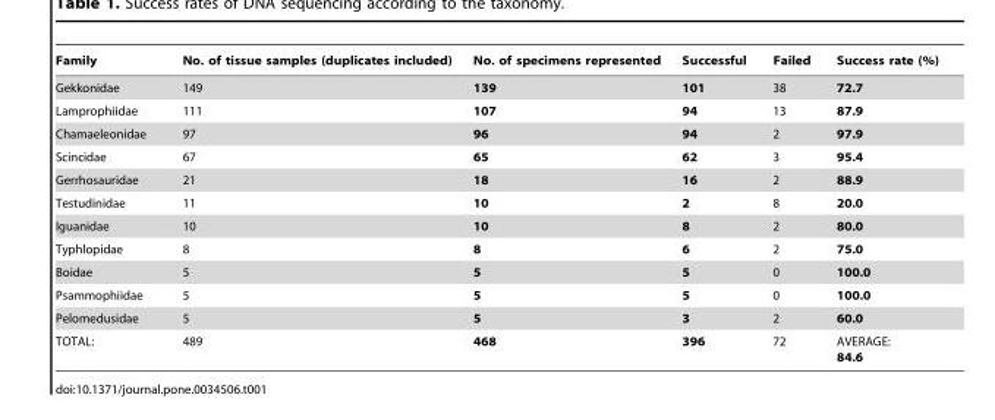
<table><thead><tr><td>Family</td><td>No. of tissue samples (duplicates included)</td><td>No. of specimens represented</td><td>Successful</td><td>Failed</td><td>Success rate (%)</td></tr></thead><tbody><tr><td>Gekkonidae</td><td>149</td><td>139</td><td>101</td><td>38</td><td>72.7</td></tr><tr><td>Lamprophiidae</td><td>111</td><td>107</td><td>94</td><td>13</td><td>87.9</td></tr><tr><td>Chamaeleonidae</td><td>97</td><td>96</td><td>94</td><td>2</td><td>97.9</td></tr><tr><td>Scincidae</td><td>67</td><td>65</td><td>62</td><td>3</td><td>95.4</td></tr><tr><td>Gerrhosauridae</td><td>21</td><td>18</td><td>16</td><td>2</td><td>88.9</td></tr><tr><td>Testudinidae</td><td>11</td><td>10</td><td>2</td><td>8</td><td>20.0</td></tr><tr><td>Iguanidae</td><td>10</td><td>10</td><td>8</td><td>2</td><td>80.0</td></tr><tr><td>Typhlopidae</td><td>8</td><td>8</td><td>6</td><td>2</td><td>75.0</td></tr><tr><td>Boidae</td><td>5</td><td>5</td><td>5</td><td>0</td><td>100.0</td></tr><tr><td>Psammophiidae</td><td>5</td><td>5</td><td>5</td><td>0</td><td>100.0</td></tr><tr><td>Pelomedusidae</td><td>5</td><td>5</td><td>3</td><td>2</td><td>60.0</td></tr><tr><td>TOTAL:</td><td>489</td><td>468</td><td>396</td><td>72</td><td>AVERAGE: 84.6</td></tr></tbody></table>